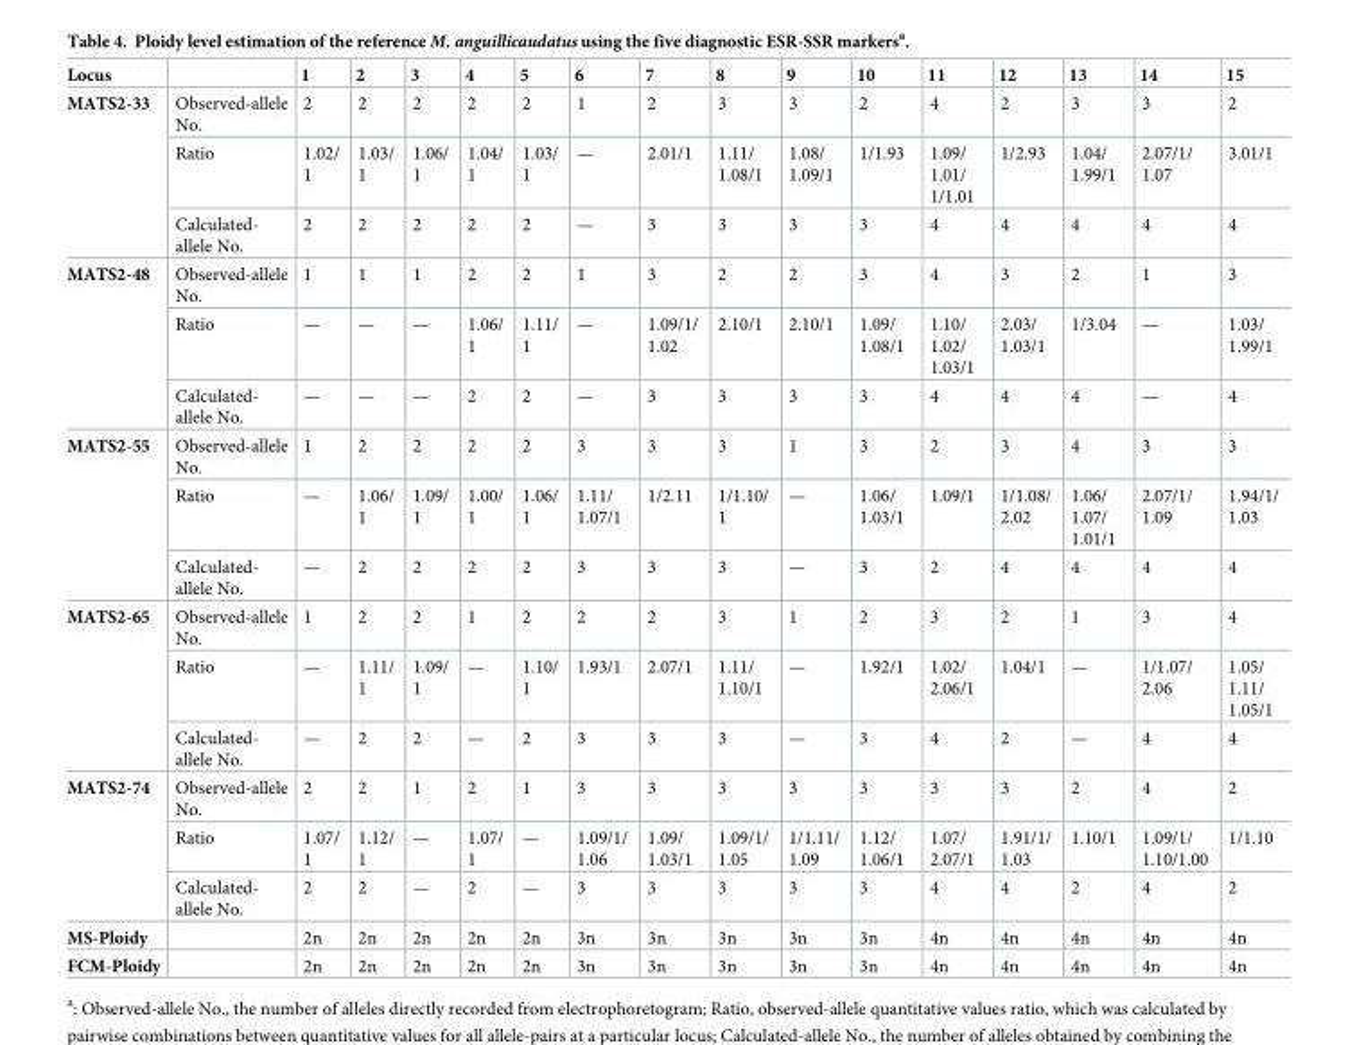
<table><thead><tr><td>Locus</td><td></td><td>1</td><td>2</td><td>3</td><td>4</td><td>5</td><td>6</td><td>7</td><td>8</td><td>9</td><td>10</td><td>11</td><td>12</td><td>13</td><td>14</td><td>15</td></tr></thead><tbody><tr><td rowspan="3">MATS2-33</td><td>Observed-allele No.</td><td>2</td><td>2</td><td>2</td><td>2</td><td>2</td><td>1</td><td>2</td><td>3</td><td>3</td><td>2</td><td>4</td><td>2</td><td>3</td><td>3</td><td>2</td></tr><tr><td>Ratio</td><td>1.02/ 1</td><td>1.03/ 1</td><td>1.06/ 1</td><td>1.04/ 1</td><td>1.03/ 1</td><td>—</td><td>2.01/1</td><td>1.11/ 1.08/1</td><td>1.08/ 1.09/1</td><td>1/1.93</td><td>1.09/ 1.01/ 1/1.01</td><td>1/2.93</td><td>1.04/ 1.99/1</td><td>2.07/1/ 1.07</td><td>3.01/1</td></tr><tr><td>Calculated- allele No.</td><td>2</td><td>2</td><td>2</td><td>2</td><td>2</td><td>—</td><td>3</td><td>3</td><td>3</td><td>3</td><td>4</td><td>4</td><td>4</td><td>4</td><td>4</td></tr><tr><td rowspan="3">MATS2-48</td><td>Observed-allele No.</td><td>1</td><td>1</td><td>1</td><td>2</td><td>2</td><td>1</td><td>3</td><td>2</td><td>2</td><td>3</td><td>4</td><td>3</td><td>2</td><td>1</td><td>3</td></tr><tr><td>Ratio</td><td>—</td><td>—</td><td>—</td><td>1.06/ 1</td><td>1.11/ 1</td><td>—</td><td>1.09/1/ 1.02</td><td>2.10/1</td><td>2.10/1</td><td>1.09/ 1.08/1</td><td>1.10/ 1.02/ 1.03/1</td><td>2.03/ 1.03/1</td><td>1/3.04</td><td>—</td><td>1.03/ 1.99/1</td></tr><tr><td>Calculated- allele No.</td><td>—</td><td>—</td><td>—</td><td>2</td><td>2</td><td>—</td><td>3</td><td>3</td><td>3</td><td>3</td><td>4</td><td>4</td><td>4</td><td>—</td><td>4</td></tr><tr><td rowspan="3">MATS2-55</td><td>Observed-allele No.</td><td>1</td><td>2</td><td>2</td><td>2</td><td>2</td><td>3</td><td>3</td><td>3</td><td>1</td><td>3</td><td>2</td><td>3</td><td>4</td><td>3</td><td>3</td></tr><tr><td>Ratio</td><td>—</td><td>1.06/ 1</td><td>1.09/ 1</td><td>1.00/ 1</td><td>1.06/ 1</td><td>1.11/ 1.07/1</td><td>1/2.11</td><td>1/1.10/ 1</td><td>—</td><td>1.06/ 1.03/1</td><td>1.09/1</td><td>1/1.08/ 2.02</td><td>1.06/ 1.07/ 1.01/1</td><td>2.07/1/ 1.09</td><td>1.94/1/ 1.03</td></tr><tr><td>Calculated- allele No.</td><td>—</td><td>2</td><td>2</td><td>2</td><td>2</td><td>3</td><td>3</td><td>3</td><td>—</td><td>3</td><td>2</td><td>4</td><td>4</td><td>4</td><td>4</td></tr><tr><td rowspan="3">MATS2-65</td><td>Observed-allele No.</td><td>1</td><td>2</td><td>2</td><td>1</td><td>2</td><td>2</td><td>2</td><td>3</td><td>1</td><td>2</td><td>3</td><td>2</td><td>1</td><td>3</td><td>4</td></tr><tr><td>Ratio</td><td>—</td><td>1.11/ 1</td><td>1.09/ 1</td><td>—</td><td>1.10/ 1</td><td>1.93/1</td><td>2.07/1</td><td>1.11/ 1.10/1</td><td>—</td><td>1.92/1</td><td>1.02/ 2.06/1</td><td>1.04/1</td><td>—</td><td>1/1.07/ 2.06</td><td>1.05/ 1.11/ 1.05/1</td></tr><tr><td>Calculated- allele No.</td><td>—</td><td>2</td><td>2</td><td>—</td><td>2</td><td>3</td><td>3</td><td>3</td><td>—</td><td>3</td><td>4</td><td>2</td><td>—</td><td>4</td><td>4</td></tr><tr><td rowspan="3">MATS2-74</td><td>Observed-allele No.</td><td>2</td><td>2</td><td>1</td><td>2</td><td>1</td><td>3</td><td>3</td><td>3</td><td>3</td><td>3</td><td>3</td><td>3</td><td>2</td><td>4</td><td>2</td></tr><tr><td>Ratio</td><td>1.07/ 1</td><td>1.12/ 1</td><td>—</td><td>1.07/ 1</td><td>—</td><td>1.09/1/ 1.06</td><td>1.09/ 1.03/1</td><td>1.09/1/ 1.05</td><td>1/1.11/ 1.09</td><td>1.12/ 1.06/1</td><td>1.07/ 2.07/1</td><td>1.91/1/ 1.03</td><td>1.10/1</td><td>1.09/1/ 1.10/1.00</td><td>1/1.10</td></tr><tr><td>Calculated- allele No.</td><td>2</td><td>2</td><td>—</td><td>2</td><td>—</td><td>3</td><td>3</td><td>3</td><td>3</td><td>3</td><td>4</td><td>4</td><td>2</td><td>4</td><td>2</td></tr><tr><td>MS-Ploidy</td><td></td><td>2n</td><td>2n</td><td>2n</td><td>2n</td><td>2n</td><td>3n</td><td>3n</td><td>3n</td><td>3n</td><td>3n</td><td>4n</td><td>4n</td><td>4n</td><td>4n</td><td>4n</td></tr><tr><td>FCM-Ploidy</td><td></td><td>2n</td><td>2n</td><td>2n</td><td>2n</td><td>2n</td><td>3n</td><td>3n</td><td>3n</td><td>3n</td><td>3n</td><td>4n</td><td>4n</td><td>4n</td><td>4n</td><td>4n</td></tr></tbody></table>